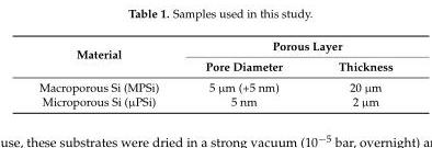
<table><thead><tr><td rowspan="2">Material</td><td colspan="2">Porous Layer</td></tr><tr><td>Pore Diameter</td><td>Thickness</td></tr></thead><tbody><tr><td>Macroporous Si (MPSi)</td><td>5 µm (+5 nm)</td><td>20 µm</td></tr><tr><td>Microporous Si (µPSi)</td><td>5 nm</td><td>2 µm</td></tr></tbody></table>